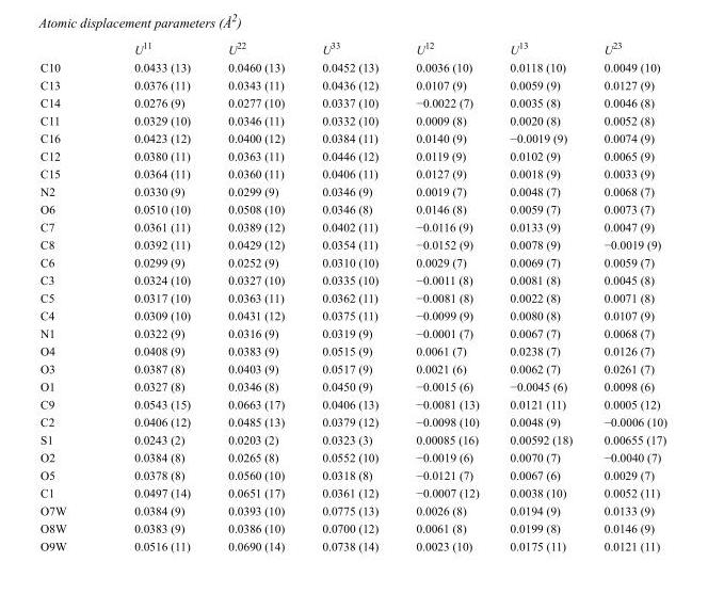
<table><thead><tr><td></td><td>U<sup>11</sup></td><td>U<sup>22</sup></td><td>U<sup>33</sup></td><td>U<sup>12</sup></td><td>U<sup>13</sup></td><td>U<sup>23</sup></td></tr></thead><tbody><tr><td>C10</td><td>0.0433 (13)</td><td>0.0460 (13)</td><td>0.0452 (13)</td><td>0.0036 (10)</td><td>0.0118 (10)</td><td>0.0049 (10)</td></tr><tr><td>C13</td><td>0.0376 (11)</td><td>0.0343 (11)</td><td>0.0436 (12)</td><td>0.0107 (9)</td><td>0.0059 (9)</td><td>0.0127 (9)</td></tr><tr><td>C14</td><td>0.0276 (9)</td><td>0.0277 (10)</td><td>0.0337 (10)</td><td>−0.0022 (7)</td><td>0.0035 (8)</td><td>0.0046 (8)</td></tr><tr><td>C11</td><td>0.0329 (10)</td><td>0.0346 (11)</td><td>0.0332 (10)</td><td>0.0009 (8)</td><td>0.0020 (8)</td><td>0.0052 (8)</td></tr><tr><td>C16</td><td>0.0423 (12)</td><td>0.0400 (12)</td><td>0.0384 (11)</td><td>0.0140 (9)</td><td>−0.0019 (9)</td><td>0.0074 (9)</td></tr><tr><td>C12</td><td>0.0380 (11)</td><td>0.0363 (11)</td><td>0.0446 (12)</td><td>0.0119 (9)</td><td>0.0102 (9)</td><td>0.0065 (9)</td></tr><tr><td>C15</td><td>0.0364 (11)</td><td>0.0360 (11)</td><td>0.0406 (11)</td><td>0.0127 (9)</td><td>0.0018 (9)</td><td>0.0033 (9)</td></tr><tr><td>N2</td><td>0.0330 (9)</td><td>0.0299 (9)</td><td>0.0346 (9)</td><td>0.0019 (7)</td><td>0.0048 (7)</td><td>0.0068 (7)</td></tr><tr><td>O6</td><td>0.0510 (10)</td><td>0.0508 (10)</td><td>0.0346 (8)</td><td>0.0146 (8)</td><td>0.0059 (7)</td><td>0.0073 (7)</td></tr><tr><td>C7</td><td>0.0361 (11)</td><td>0.0389 (12)</td><td>0.0402 (11)</td><td>−0.0116 (9)</td><td>0.0133 (9)</td><td>0.0047 (9)</td></tr><tr><td>C8</td><td>0.0392 (11)</td><td>0.0429 (12)</td><td>0.0354 (11)</td><td>−0.0152 (9)</td><td>0.0078 (9)</td><td>−0.0019 (9)</td></tr><tr><td>C6</td><td>0.0299 (9)</td><td>0.0252 (9)</td><td>0.0310 (10)</td><td>0.0029 (7)</td><td>0.0069 (7)</td><td>0.0059 (7)</td></tr><tr><td>C3</td><td>0.0324 (10)</td><td>0.0327 (10)</td><td>0.0335 (10)</td><td>−0.0011 (8)</td><td>0.0081 (8)</td><td>0.0045 (8)</td></tr><tr><td>C5</td><td>0.0317 (10)</td><td>0.0363 (11)</td><td>0.0362 (11)</td><td>−0.0081 (8)</td><td>0.0022 (8)</td><td>0.0071 (8)</td></tr><tr><td>C4</td><td>0.0309 (10)</td><td>0.0431 (12)</td><td>0.0375 (11)</td><td>−0.0099 (9)</td><td>0.0080 (8)</td><td>0.0107 (9)</td></tr><tr><td>N1</td><td>0.0322 (9)</td><td>0.0316 (9)</td><td>0.0319 (9)</td><td>−0.0001 (7)</td><td>0.0067 (7)</td><td>0.0068 (7)</td></tr><tr><td>O4</td><td>0.0408 (9)</td><td>0.0383 (9)</td><td>0.0515 (9)</td><td>0.0061 (7)</td><td>0.0238 (7)</td><td>0.0126 (7)</td></tr><tr><td>O3</td><td>0.0387 (8)</td><td>0.0403 (9)</td><td>0.0517 (9)</td><td>0.0021 (6)</td><td>0.0062 (7)</td><td>0.0261 (7)</td></tr><tr><td>O1</td><td>0.0327 (8)</td><td>0.0346 (8)</td><td>0.0450 (9)</td><td>−0.0015 (6)</td><td>−0.0045 (6)</td><td>0.0098 (6)</td></tr><tr><td>C9</td><td>0.0543 (15)</td><td>0.0663 (17)</td><td>0.0406 (13)</td><td>−0.0081 (13)</td><td>0.0121 (11)</td><td>0.0005 (12)</td></tr><tr><td>C2</td><td>0.0406 (12)</td><td>0.0485 (13)</td><td>0.0379 (12)</td><td>−0.0098 (10)</td><td>0.0048 (9)</td><td>−0.0006 (10)</td></tr><tr><td>S1</td><td>0.0243 (2)</td><td>0.0203 (2)</td><td>0.0323 (3)</td><td>0.00085 (16)</td><td>0.00592 (18)</td><td>0.00655 (17)</td></tr><tr><td>O2</td><td>0.0384 (8)</td><td>0.0265 (8)</td><td>0.0552 (10)</td><td>−0.0019 (6)</td><td>0.0070 (7)</td><td>−0.0040 (7)</td></tr><tr><td>O5</td><td>0.0378 (8)</td><td>0.0560 (10)</td><td>0.0318 (8)</td><td>−0.0121 (7)</td><td>0.0067 (6)</td><td>0.0029 (7)</td></tr><tr><td>C1</td><td>0.0497 (14)</td><td>0.0651 (17)</td><td>0.0361 (12)</td><td>−0.0007 (12)</td><td>0.0038 (10)</td><td>0.0052 (11)</td></tr><tr><td>O7W</td><td>0.0384 (9)</td><td>0.0393 (10)</td><td>0.0775 (13)</td><td>0.0026 (8)</td><td>0.0194 (9)</td><td>0.0133 (9)</td></tr><tr><td>O8W</td><td>0.0383 (9)</td><td>0.0386 (10)</td><td>0.0700 (12)</td><td>0.0061 (8)</td><td>0.0199 (8)</td><td>0.0146 (9)</td></tr><tr><td>O9W</td><td>0.0516 (11)</td><td>0.0690 (14)</td><td>0.0738 (14)</td><td>0.0023 (10)</td><td>0.0175 (11)</td><td>0.0121 (11)</td></tr></tbody></table>